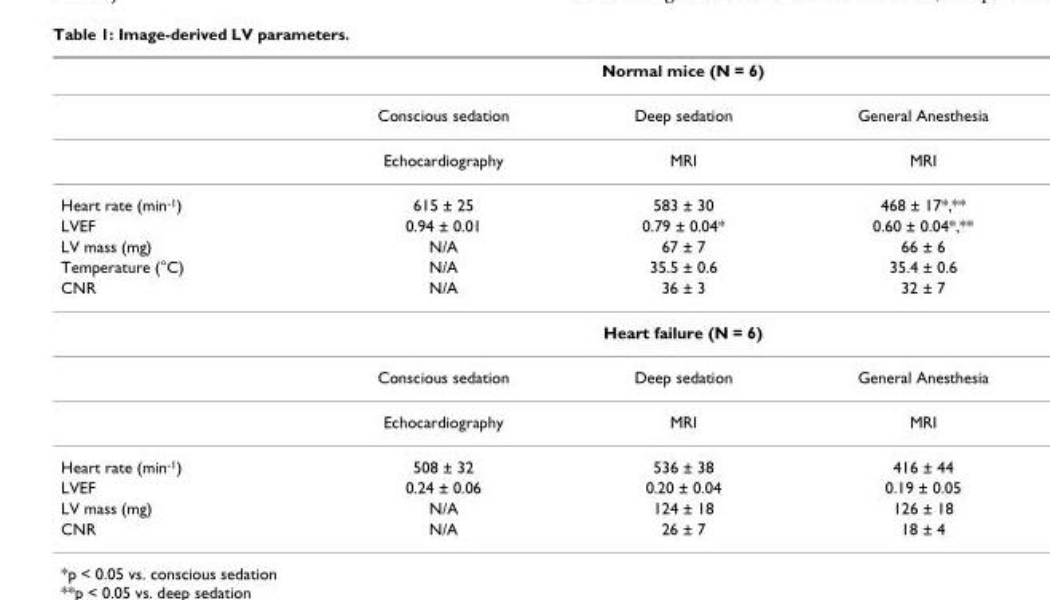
<table><thead><tr><td rowspan="2"></td><td colspan="3">Normal mice (N = 6)</td></tr><tr><td>Conscious sedation</td><td>Deep sedation</td><td>General Anesthesia</td></tr></thead><tbody><tr><td></td><td>Echocardiography</td><td>MRI</td><td>MRI</td></tr><tr><td>Heart rate (min<sup>-1</sup>)</td><td>615 ± 25</td><td>583 ± 30</td><td>468 ± 17*,**</td></tr><tr><td>LVEF</td><td>0.94 ± 0.01</td><td>0.79 ± 0.04*</td><td>0.60 ± 0.04*,**</td></tr><tr><td>LV mass (mg)</td><td>N/A</td><td>67 ± 7</td><td>66 ± 6</td></tr><tr><td>Temperature (°C)</td><td>N/A</td><td>35.5 ± 0.6</td><td>35.4 ± 0.6</td></tr><tr><td rowspan="4">CNR</td><td>N/A</td><td>36 ± 3</td><td>32 ± 7</td></tr><tr><td colspan="3">Heart failure (N = 6)</td></tr><tr><td>Conscious sedation</td><td>Deep sedation</td><td>General Anesthesia</td></tr><tr><td>Echocardiography</td><td>MRI</td><td>MRI</td></tr><tr><td>Heart rate (min<sup>-1</sup>)</td><td>508 ± 32</td><td>536 ± 38</td><td>416 ± 44</td></tr><tr><td>LVEF</td><td>0.24 ± 0.06</td><td>0.20 ± 0.04</td><td>0.19 ± 0.05</td></tr><tr><td>LV mass (mg)</td><td>N/A</td><td>124 ± 18</td><td>126 ± 18</td></tr><tr><td>CNR</td><td>N/A</td><td>26 ± 7</td><td>18 ± 4</td></tr></tbody></table>